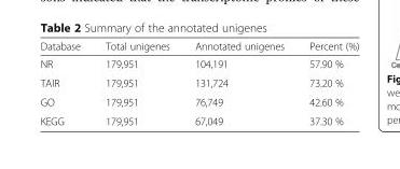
<table><thead><tr><td>Database</td><td>Total unigenes</td><td>Annotated unigenes</td><td>Percent (%)</td></tr></thead><tbody><tr><td>NR</td><td>179,951</td><td>104,191</td><td>57.90 %</td></tr><tr><td>TAIR</td><td>179,951</td><td>131,724</td><td>73.20 %</td></tr><tr><td>GO</td><td>179,951</td><td>76,749</td><td>42.60 %</td></tr><tr><td>KEGG</td><td>179,951</td><td>67,049</td><td>37.30 %</td></tr></tbody></table>